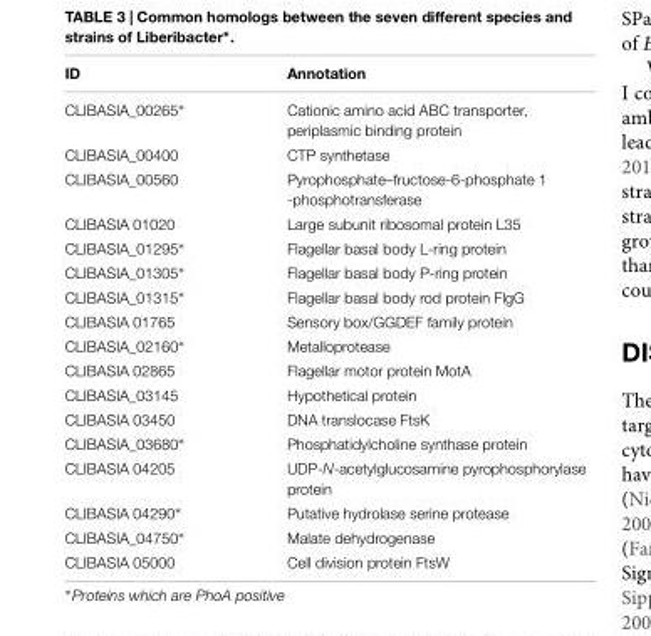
<table><thead><tr><td>ID</td><td>Annotation</td></tr></thead><tbody><tr><td>CLIBASIA_00265∗</td><td>Cationic amino acid ABC transporter, periplasmic binding protein</td></tr><tr><td>CLIBASIA_00400</td><td>CTP synthetase</td></tr><tr><td>CLIBASIA_00560</td><td>Pyrophosphate–fructose-6-phosphate 1 -phosphotransferase</td></tr><tr><td>CLIBASIA 01020</td><td>Large subunit ribosomal protein L35</td></tr><tr><td>CLIBASIA_01295∗</td><td>Flagellar basal body L-ring protein</td></tr><tr><td>CLIBASIA_01305∗</td><td>Flagellar basal body P-ring protein</td></tr><tr><td>CLIBASIA_01315∗</td><td>Flagellar basal body rod protein FlgG</td></tr><tr><td>CLIBASIA 01765</td><td>Sensory box/GGDEF family protein</td></tr><tr><td>CLIBASIA_02160∗</td><td>Metalloprotease</td></tr><tr><td>CLIBASIA 02865</td><td>Flagellar motor protein MotA</td></tr><tr><td>CLIBASIA_03145</td><td>Hypothetical protein</td></tr><tr><td>CLIBASIA 03450</td><td>DNA translocase FtsK</td></tr><tr><td>CLIBASIA_03680∗</td><td>Phosphatidylcholine synthase protein</td></tr><tr><td>CLIBASIA 04205</td><td>UDP-N-acetylglucosamine pyrophosphorylase protein</td></tr><tr><td>CLIBASIA 04290∗</td><td>Putative hydrolase serine protease</td></tr><tr><td>CLIBASIA_04750∗</td><td>Malate dehydrogenase</td></tr><tr><td>CLIBASIA 05000</td><td>Cell division protein FtsW</td></tr></tbody></table>